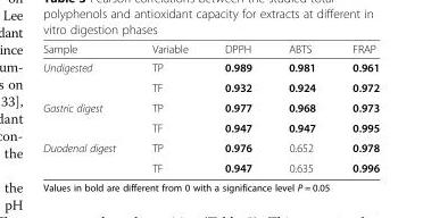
<table><thead><tr><td>Sample</td><td>Variable</td><td>DPPH</td><td>ABTS</td><td>FRAP</td></tr></thead><tbody><tr><td rowspan="2">Undigested</td><td>TP</td><td>0.989</td><td>0.981</td><td>0.961</td></tr><tr><td>TF</td><td>0.932</td><td>0.924</td><td>0.972</td></tr><tr><td rowspan="2">Gastric digest</td><td>TP</td><td>0.977</td><td>0.968</td><td>0.973</td></tr><tr><td>TF</td><td>0.947</td><td>0.947</td><td>0.995</td></tr><tr><td rowspan="2">Duodenal digest</td><td>TP</td><td>0.976</td><td>0.652</td><td>0.978</td></tr><tr><td>TF</td><td>0.947</td><td>0.635</td><td>0.996</td></tr></tbody></table>